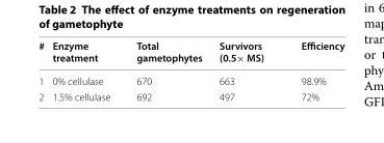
<table><thead><tr><td>#</td><td>Enzyme treatment</td><td>Total gametophytes</td><td>Survivors (0.5× MS)</td><td>Efficiency</td></tr></thead><tbody><tr><td>1</td><td>0% cellulase</td><td>670</td><td>663</td><td>98.9%</td></tr><tr><td>2</td><td>1.5% cellulase</td><td>692</td><td>497</td><td>72%</td></tr></tbody></table>